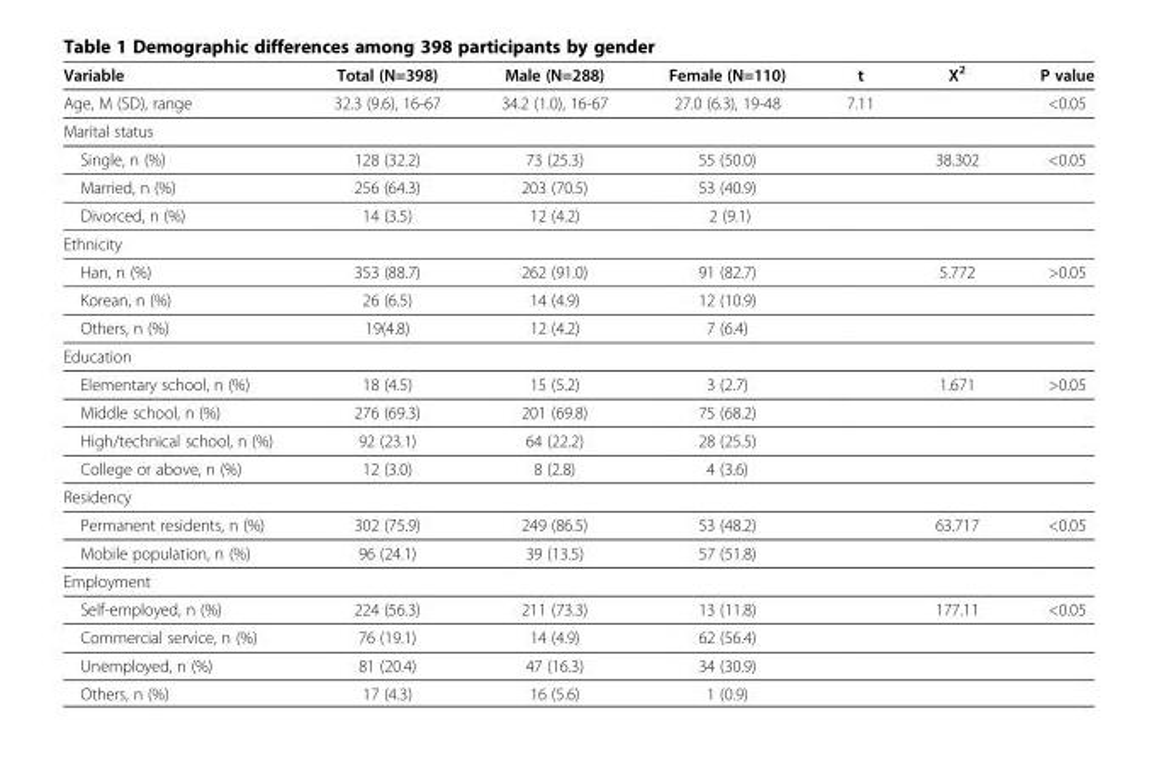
<table><thead><tr><td>Variable</td><td>Total (N=398)</td><td>Male (N=288)</td><td>Female (N=110)</td><td>t</td><td>X<sup>2</sup></td><td>P value</td></tr></thead><tbody><tr><td>Age, M (SD), range</td><td>32.3 (9.6), 16-67</td><td>34.2 (1.0), 16-67</td><td>27.0 (6.3), 19-48</td><td>7.11</td><td></td><td>&lt;0.05</td></tr><tr><td colspan="7">Marital status</td></tr><tr><td>Single, n (%)</td><td>128 (32.2)</td><td>73 (25.3)</td><td>55 (50.0)</td><td></td><td>38.302</td><td>&lt;0.05</td></tr><tr><td>Married, n (%)</td><td>256 (64.3)</td><td>203 (70.5)</td><td>53 (40.9)</td><td></td><td></td><td></td></tr><tr><td>Divorced, n (%)</td><td>14 (3.5)</td><td>12 (4.2)</td><td>2 (9.1)</td><td></td><td></td><td></td></tr><tr><td colspan="7">Ethnicity</td></tr><tr><td>Han, n (%)</td><td>353 (88.7)</td><td>262 (91.0)</td><td>91 (82.7)</td><td></td><td>5.772</td><td>&gt;0.05</td></tr><tr><td>Korean, n (%)</td><td>26 (6.5)</td><td>14 (4.9)</td><td>12 (10.9)</td><td></td><td></td><td></td></tr><tr><td>Others, n (%)</td><td>19(4.8)</td><td>12 (4.2)</td><td>7 (6.4)</td><td></td><td></td><td></td></tr><tr><td colspan="7">Education</td></tr><tr><td>Elementary school, n (%)</td><td>18 (4.5)</td><td>15 (5.2)</td><td>3 (2.7)</td><td></td><td>1.671</td><td>&gt;0.05</td></tr><tr><td>Middle school, n (%)</td><td>276 (69.3)</td><td>201 (69.8)</td><td>75 (68.2)</td><td></td><td></td><td></td></tr><tr><td>High/technical school, n (%)</td><td>92 (23.1)</td><td>64 (22.2)</td><td>28 (25.5)</td><td></td><td></td><td></td></tr><tr><td>College or above, n (%)</td><td>12 (3.0)</td><td>8 (2.8)</td><td>4 (3.6)</td><td></td><td></td><td></td></tr><tr><td colspan="7">Residency</td></tr><tr><td>Permanent residents, n (%)</td><td>302 (75.9)</td><td>249 (86.5)</td><td>53 (48.2)</td><td></td><td>63.717</td><td>&lt;0.05</td></tr><tr><td>Mobile population, n (%)</td><td>96 (24.1)</td><td>39 (13.5)</td><td>57 (51.8)</td><td></td><td></td><td></td></tr><tr><td colspan="7">Employment</td></tr><tr><td>Self-employed, n (%)</td><td>224 (56.3)</td><td>211 (73.3)</td><td>13 (11.8)</td><td></td><td>177.11</td><td>&lt;0.05</td></tr><tr><td>Commercial service, n (%)</td><td>76 (19.1)</td><td>14 (4.9)</td><td>62 (56.4)</td><td></td><td></td><td></td></tr><tr><td>Unemployed, n (%)</td><td>81 (20.4)</td><td>47 (16.3)</td><td>34 (30.9)</td><td></td><td></td><td></td></tr><tr><td>Others, n (%)</td><td>17 (4.3)</td><td>16 (5.6)</td><td>1 (0.9)</td><td></td><td></td><td></td></tr></tbody></table>